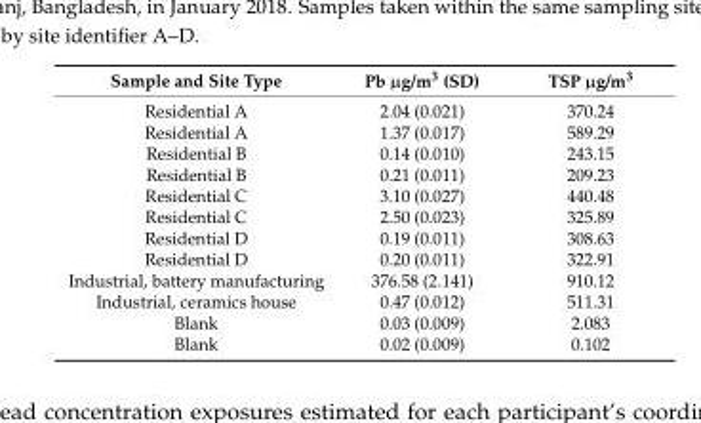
<table><thead><tr><td>Sample and Site Type</td><td>Pb µg/m<sup>3</sup> (SD)</td><td>TSP µg/m<sup>3</sup></td></tr></thead><tbody><tr><td>Residential A</td><td>2.04 (0.021)</td><td>370.24</td></tr><tr><td>Residential A</td><td>1.37 (0.017)</td><td>589.29</td></tr><tr><td>Residential B</td><td>0.14 (0.010)</td><td>243.15</td></tr><tr><td>Residential B</td><td>0.21 (0.011)</td><td>209.23</td></tr><tr><td>Residential C</td><td>3.10 (0.027)</td><td>440.48</td></tr><tr><td>Residential C</td><td>2.50 (0.023)</td><td>325.89</td></tr><tr><td>Residential D</td><td>0.19 (0.011)</td><td>308.63</td></tr><tr><td>Residential D</td><td>0.20 (0.011)</td><td>322.91</td></tr><tr><td>Industrial, battery manufacturing</td><td>376.58 (2.141)</td><td>910.12</td></tr><tr><td>Industrial, ceramics house</td><td>0.47 (0.012)</td><td>511.31</td></tr><tr><td>Blank</td><td>0.03 (0.009)</td><td>2.083</td></tr><tr><td>Blank</td><td>0.02 (0.009)</td><td>0.102</td></tr></tbody></table>